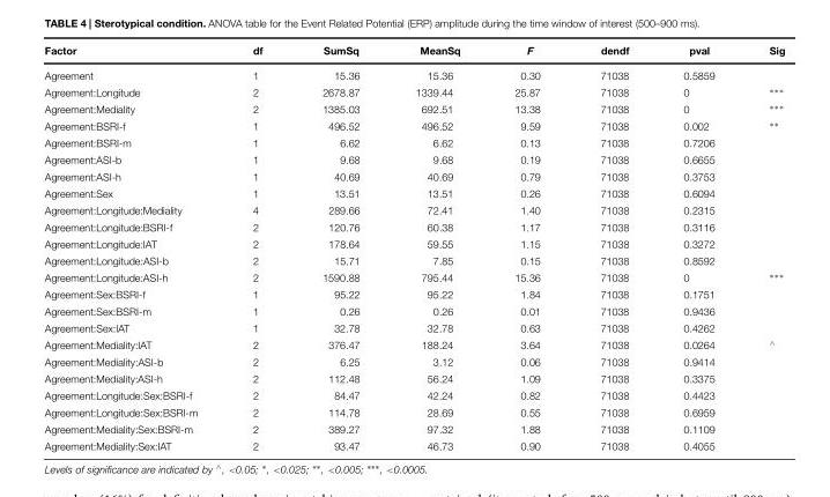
<table><thead><tr><td>Factor</td><td>df</td><td>SumSq</td><td>MeanSq</td><td>F</td><td>dendf</td><td>pval</td><td>Sig</td></tr></thead><tbody><tr><td>Agreement</td><td>1</td><td>15.36</td><td>15.36</td><td>0.30</td><td>71038</td><td>0.5859</td><td></td></tr><tr><td>Agreement:Longitude</td><td>2</td><td>2678.87</td><td>1339.44</td><td>25.87</td><td>71038</td><td>0</td><td>∗∗∗</td></tr><tr><td>Agreement:Mediality</td><td>2</td><td>1385.03</td><td>692.51</td><td>13.38</td><td>71038</td><td>0</td><td>∗∗∗</td></tr><tr><td>Agreement:BSRI-f</td><td>1</td><td>496.52</td><td>496.52</td><td>9.59</td><td>71038</td><td>0.002</td><td>∗∗</td></tr><tr><td>Agreement:BSRI-m</td><td>1</td><td>6.62</td><td>6.62</td><td>0.13</td><td>71038</td><td>0.7206</td><td></td></tr><tr><td>Agreement:ASI-b</td><td>1</td><td>9.68</td><td>9.68</td><td>0.19</td><td>71038</td><td>0.6655</td><td></td></tr><tr><td>Agreement:ASI-h</td><td>1</td><td>40.69</td><td>40.69</td><td>0.79</td><td>71038</td><td>0.3753</td><td></td></tr><tr><td>Agreement:Sex</td><td>1</td><td>13.51</td><td>13.51</td><td>0.26</td><td>71038</td><td>0.6094</td><td></td></tr><tr><td>Agreement:Longitude:Mediality</td><td>4</td><td>289.66</td><td>72.41</td><td>1.40</td><td>71038</td><td>0.2315</td><td></td></tr><tr><td>Agreement:Longitude:BSRI-f</td><td>2</td><td>120.76</td><td>60.38</td><td>1.17</td><td>71038</td><td>0.3116</td><td></td></tr><tr><td>Agreement:Longitude:IAT</td><td>2</td><td>178.64</td><td>59.55</td><td>1.15</td><td>71038</td><td>0.3272</td><td></td></tr><tr><td>Agreement:Longitude:ASI-b</td><td>2</td><td>15.71</td><td>7.85</td><td>0.15</td><td>71038</td><td>0.8592</td><td></td></tr><tr><td>Agreement:Longitude:ASI-h</td><td>2</td><td>1590.88</td><td>795.44</td><td>15.36</td><td>71038</td><td>0</td><td>∗∗∗</td></tr><tr><td>Agreement:Sex:BSRI-f</td><td>1</td><td>95.22</td><td>95.22</td><td>1.84</td><td>71038</td><td>0.1751</td><td></td></tr><tr><td>Agreement:Sex:BSRI-m</td><td>1</td><td>0.26</td><td>0.26</td><td>0.01</td><td>71038</td><td>0.9436</td><td></td></tr><tr><td>Agreement:Sex:IAT</td><td>1</td><td>32.78</td><td>32.78</td><td>0.63</td><td>71038</td><td>0.4262</td><td></td></tr><tr><td>Agreement:Mediality:IAT</td><td>2</td><td>376.47</td><td>188.24</td><td>3.64</td><td>71038</td><td>0.0264</td><td><sup>∧</sup></td></tr><tr><td>Agreement:Mediality:ASI-b</td><td>2</td><td>6.25</td><td>3.12</td><td>0.06</td><td>71038</td><td>0.9414</td><td></td></tr><tr><td>Agreement:Mediality:ASI-h</td><td>2</td><td>112.48</td><td>56.24</td><td>1.09</td><td>71038</td><td>0.3375</td><td></td></tr><tr><td>Agreement:Longitude:Sex:BSRI-f</td><td>2</td><td>84.47</td><td>42.24</td><td>0.82</td><td>71038</td><td>0.4423</td><td></td></tr><tr><td>Agreement:Longitude:Sex:BSRI-m</td><td>2</td><td>114.78</td><td>28.69</td><td>0.55</td><td>71038</td><td>0.6959</td><td></td></tr><tr><td>Agreement:Mediality:Sex:BSRI-m</td><td>2</td><td>389.27</td><td>97.32</td><td>1.88</td><td>71038</td><td>0.1109</td><td></td></tr><tr><td>Agreement:Mediality:Sex:IAT</td><td>2</td><td>93.47</td><td>46.73</td><td>0.90</td><td>71038</td><td>0.4055</td><td></td></tr></tbody></table>